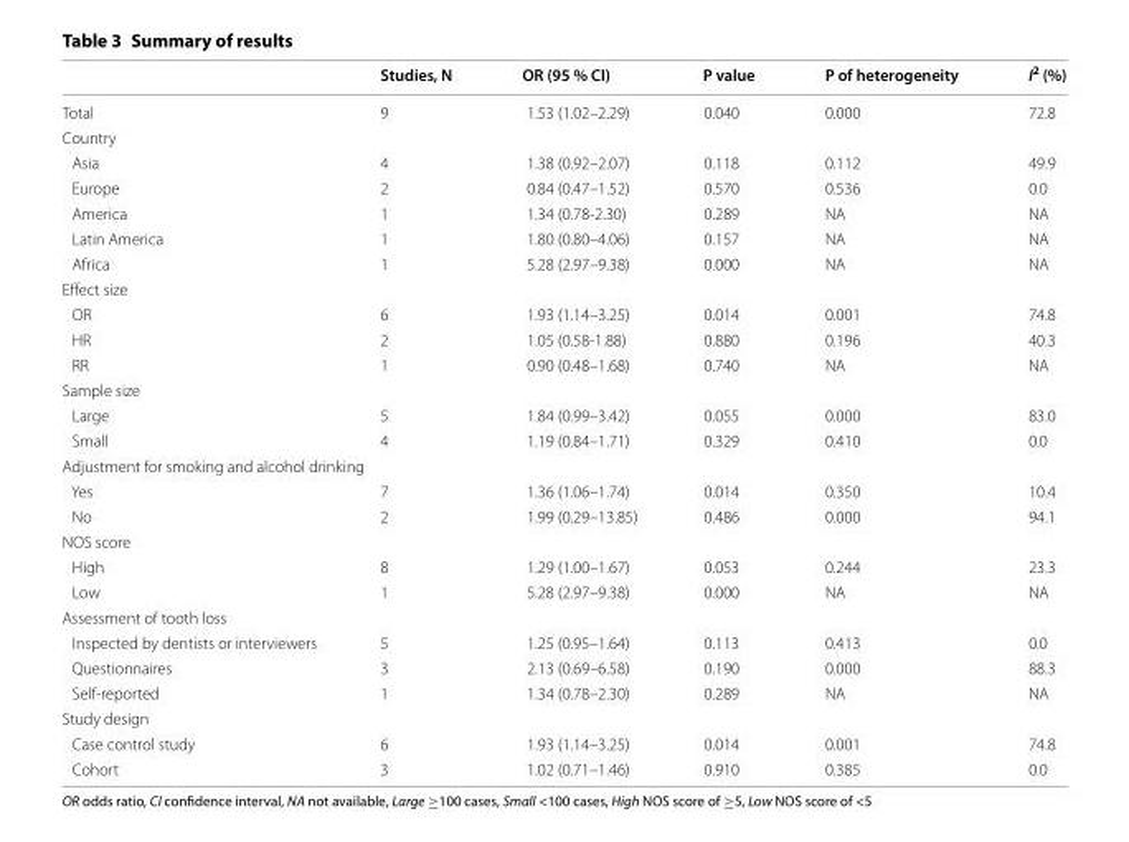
<table><thead><tr><td></td><td>Studies, N</td><td>OR (95 % CI)</td><td>P value</td><td>P of heterogeneity</td><td>I<sup>2</sup> (%)</td></tr></thead><tbody><tr><td>Total</td><td>9</td><td>1.53 (1.02–2.29)</td><td>0.040</td><td>0.000</td><td>72.8</td></tr><tr><td colspan="6">Country</td></tr><tr><td>Asia</td><td>4</td><td>1.38 (0.92–2.07)</td><td>0.118</td><td>0.112</td><td>49.9</td></tr><tr><td>Europe</td><td>2</td><td>0.84 (0.47–1.52)</td><td>0.570</td><td>0.536</td><td>0.0</td></tr><tr><td>America</td><td>1</td><td>1.34 (0.78-2.30)</td><td>0.289</td><td>NA</td><td>NA</td></tr><tr><td>Latin America</td><td>1</td><td>1.80 (0.80–4.06)</td><td>0.157</td><td>NA</td><td>NA</td></tr><tr><td>Africa</td><td>1</td><td>5.28 (2.97–9.38)</td><td>0.000</td><td>NA</td><td>NA</td></tr><tr><td colspan="6">Effect size</td></tr><tr><td>OR</td><td>6</td><td>1.93 (1.14–3.25)</td><td>0.014</td><td>0.001</td><td>74.8</td></tr><tr><td>HR</td><td>2</td><td>1.05 (0.58-1.88)</td><td>0.880</td><td>0.196</td><td>40.3</td></tr><tr><td>RR</td><td>1</td><td>0.90 (0.48–1.68)</td><td>0.740</td><td>NA</td><td>NA</td></tr><tr><td colspan="6">Sample size</td></tr><tr><td>Large</td><td>5</td><td>1.84 (0.99–3.42)</td><td>0.055</td><td>0.000</td><td>83.0</td></tr><tr><td>Small</td><td>4</td><td>1.19 (0.84–1.71)</td><td>0.329</td><td>0.410</td><td>0.0</td></tr><tr><td colspan="6">Adjustment for smoking and alcohol drinking</td></tr><tr><td>Yes</td><td>7</td><td>1.36 (1.06–1.74)</td><td>0.014</td><td>0.350</td><td>10.4</td></tr><tr><td>No</td><td>2</td><td>1.99 (0.29–13.85)</td><td>0.486</td><td>0.000</td><td>94.1</td></tr><tr><td colspan="6">NOS score</td></tr><tr><td>High</td><td>8</td><td>1.29 (1.00–1.67)</td><td>0.053</td><td>0.244</td><td>23.3</td></tr><tr><td>Low</td><td>1</td><td>5.28 (2.97–9.38)</td><td>0.000</td><td>NA</td><td>NA</td></tr><tr><td colspan="6">Assessment of tooth loss</td></tr><tr><td>Inspected by dentists or interviewers</td><td>5</td><td>1.25 (0.95–1.64)</td><td>0.113</td><td>0.413</td><td>0.0</td></tr><tr><td>Questionnaires</td><td>3</td><td>2.13 (0.69–6.58)</td><td>0.190</td><td>0.000</td><td>88.3</td></tr><tr><td>Self-reported</td><td>1</td><td>1.34 (0.78–2.30)</td><td>0.289</td><td>NA</td><td>NA</td></tr><tr><td colspan="6">Study design</td></tr><tr><td>Case control study</td><td>6</td><td>1.93 (1.14–3.25)</td><td>0.014</td><td>0.001</td><td>74.8</td></tr><tr><td>Cohort</td><td>3</td><td>1.02 (0.71–1.46)</td><td>0.910</td><td>0.385</td><td>0.0</td></tr></tbody></table>